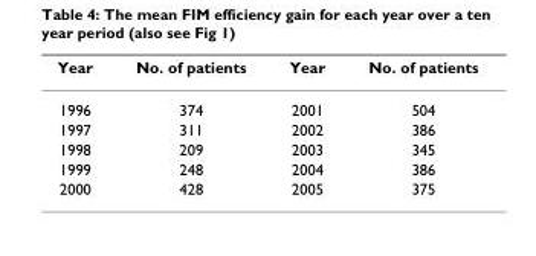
<table><thead><tr><td>Year</td><td>No. of patients</td><td>Year</td><td>No. of patients</td></tr></thead><tbody><tr><td>1996</td><td>374</td><td>2001</td><td>504</td></tr><tr><td>1997</td><td>311</td><td>2002</td><td>386</td></tr><tr><td>1998</td><td>209</td><td>2003</td><td>345</td></tr><tr><td>1999</td><td>248</td><td>2004</td><td>386</td></tr><tr><td>2000</td><td>428</td><td>2005</td><td>375</td></tr></tbody></table>